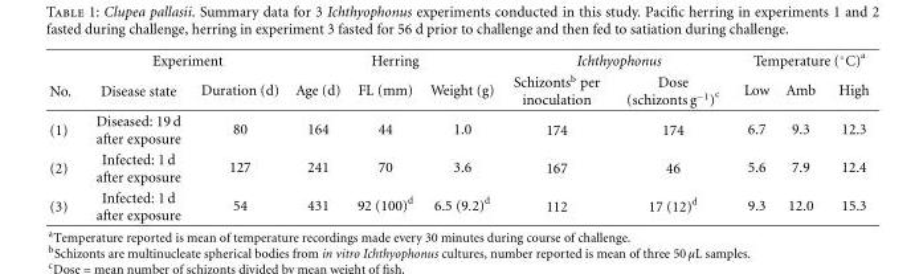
<table><thead><tr><td rowspan="2">No.</td><td colspan="2">Experiment</td><td colspan="3">Herring</td><td colspan="2">Ichthyophonus</td><td colspan="3">Temperature (◦C)a</td></tr><tr><td>Disease state</td><td>Duration (d)</td><td>Age (d)</td><td>FL (mm)</td><td>Weight (g)</td><td>Schizonts<sup>b</sup> per inoculation</td><td>Dose (schizontsg<sup>−1</sup>)<sup>c</sup></td><td>Low</td><td>Amb</td><td>High</td></tr></thead><tbody><tr><td>(1)</td><td>Diseased: 19 d after exposure</td><td>80</td><td>164</td><td>44</td><td>1.0</td><td>174</td><td>174</td><td>6.7</td><td>9.3</td><td>12.3</td></tr><tr><td>(2)</td><td>Infected: 1 d after exposure</td><td>127</td><td>241</td><td>70</td><td>3.6</td><td>167</td><td>46</td><td>5.6</td><td>7.9</td><td>12.4</td></tr><tr><td>(3)</td><td>Infected: 1 d after exposure</td><td>54</td><td>431</td><td>92 (100)<sup>d</sup></td><td>6.5 (9.2)<sup>d</sup></td><td>112</td><td>17 (12)<sup>d</sup></td><td>9.3</td><td>12.0</td><td>15.3</td></tr></tbody></table>